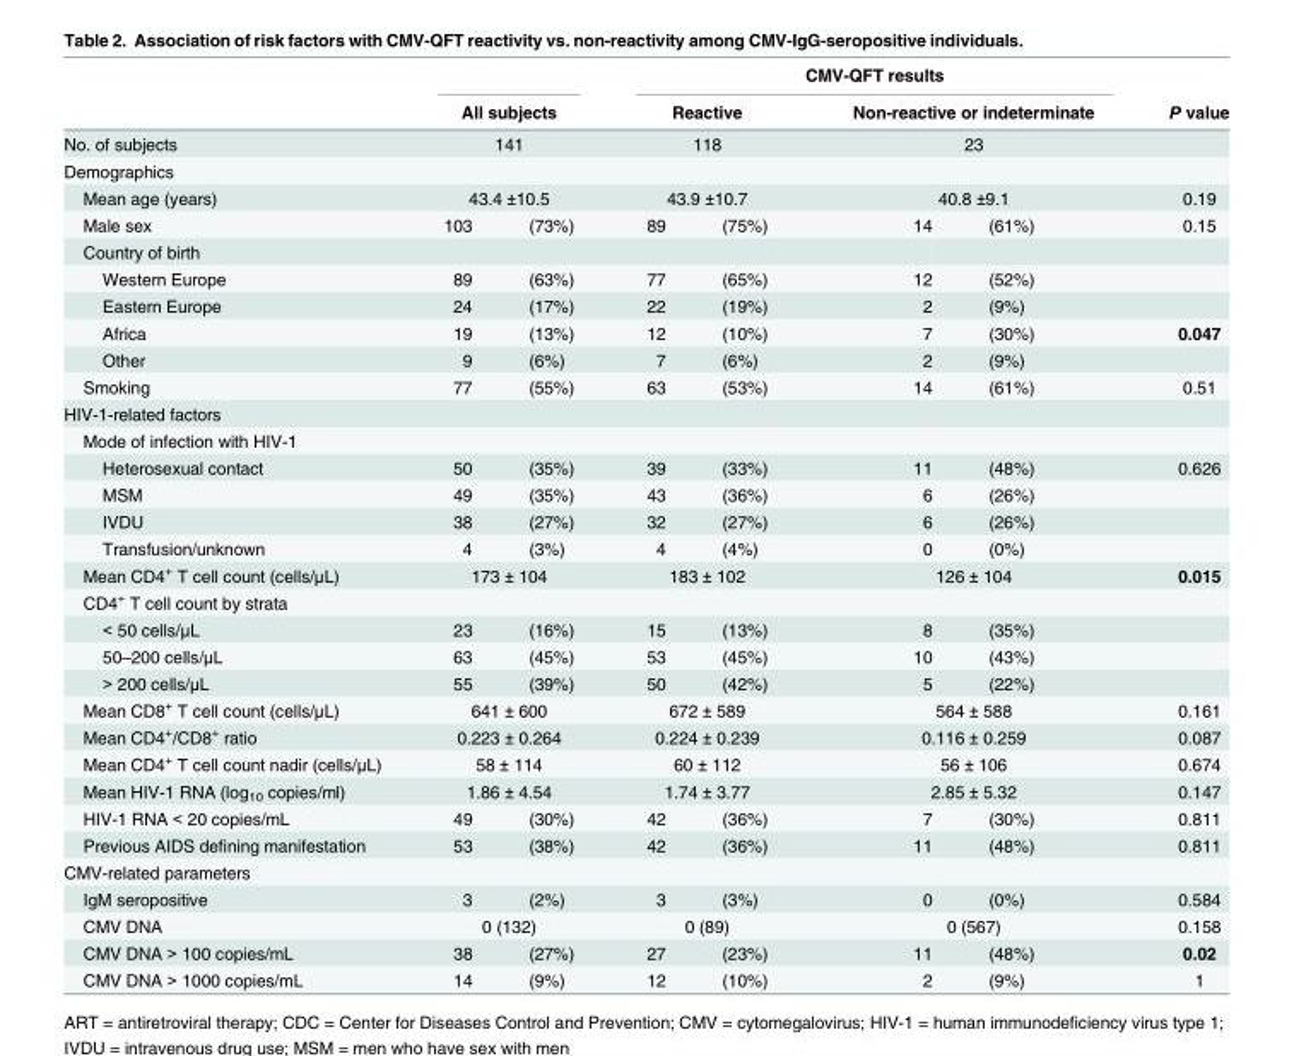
<table><thead><tr><td rowspan="2"></td><td></td><td></td><td colspan="4">CMV-QFT results</td><td rowspan="2">P value</td></tr><tr><td colspan="2">All subjects</td><td colspan="2">Reactive</td><td colspan="2">Non-reactive or indeterminate</td></tr></thead><tbody><tr><td>No. of subjects</td><td colspan="2">141</td><td colspan="2">118</td><td colspan="2">23</td><td></td></tr><tr><td colspan="8">Demographics</td></tr><tr><td>Mean age (years)</td><td colspan="2">43.4 ±10.5</td><td colspan="2">43.9 ±10.7</td><td colspan="2">40.8 ±9.1</td><td>0.19</td></tr><tr><td>Male sex</td><td>103</td><td>(73%)</td><td>89</td><td>(75%)</td><td>14</td><td>(61%)</td><td>0.15</td></tr><tr><td colspan="8">Country of birth</td></tr><tr><td>Western Europe</td><td>89</td><td>(63%)</td><td>77</td><td>(65%)</td><td>12</td><td>(52%)</td><td></td></tr><tr><td>Eastern Europe</td><td>24</td><td>(17%)</td><td>22</td><td>(19%)</td><td>2</td><td>(9%)</td><td></td></tr><tr><td>Africa</td><td>19</td><td>(13%)</td><td>12</td><td>(10%)</td><td>7</td><td>(30%)</td><td>0.047</td></tr><tr><td>Other</td><td>9</td><td>(6%)</td><td>7</td><td>(6%)</td><td>2</td><td>(9%)</td><td></td></tr><tr><td>Smoking</td><td>77</td><td>(55%)</td><td>63</td><td>(53%)</td><td>14</td><td>(61%)</td><td>0.51</td></tr><tr><td colspan="8">HIV-1-related factors</td></tr><tr><td colspan="8">Mode of infection with HIV-1</td></tr><tr><td>Heterosexual contact</td><td>50</td><td>(35%)</td><td>39</td><td>(33%)</td><td>11</td><td>(48%)</td><td>0.626</td></tr><tr><td>MSM</td><td>49</td><td>(35%)</td><td>43</td><td>(36%)</td><td>6</td><td>(26%)</td><td></td></tr><tr><td>IVDU</td><td>38</td><td>(27%)</td><td>32</td><td>(27%)</td><td>6</td><td>(26%)</td><td></td></tr><tr><td>Transfusion/unknown</td><td>4</td><td>(3%)</td><td>4</td><td>(4%)</td><td>0</td><td>(0%)</td><td></td></tr><tr><td>Mean CD4<sup>+</sup> T cell count (cells/μL)</td><td colspan="2">173 ± 104</td><td colspan="2">183 ± 102</td><td colspan="2">126 ± 104</td><td>0.015</td></tr><tr><td colspan="8">CD4<sup>+</sup> T cell count by strata</td></tr><tr><td>&lt; 50 cells/μL</td><td>23</td><td>(16%)</td><td>15</td><td>(13%)</td><td>8</td><td>(35%)</td><td></td></tr><tr><td>50–200 cells/μL</td><td>63</td><td>(45%)</td><td>53</td><td>(45%)</td><td>10</td><td>(43%)</td><td></td></tr><tr><td>&gt; 200 cells/μL</td><td>55</td><td>(39%)</td><td>50</td><td>(42%)</td><td>5</td><td>(22%)</td><td></td></tr><tr><td>Mean CD8<sup>+</sup> T cell count (cells/μL)</td><td colspan="2">641 ± 600</td><td colspan="2">672 ± 589</td><td colspan="2">564 ± 588</td><td>0.161</td></tr><tr><td>Mean CD4<sup>+</sup>/CD8<sup>+</sup> ratio</td><td colspan="2">0.223 ± 0.264</td><td colspan="2">0.224 ± 0.239</td><td colspan="2">0.116 ± 0.259</td><td>0.087</td></tr><tr><td>Mean CD4<sup>+</sup> T cell count nadir (cells/μL)</td><td colspan="2">58 ± 114</td><td colspan="2">60 ± 112</td><td colspan="2">56 ± 106</td><td>0.674</td></tr><tr><td>Mean HIV-1 RNA (log<sub>10</sub> copies/ml)</td><td colspan="2">1.86 ± 4.54</td><td colspan="2">1.74 ± 3.77</td><td colspan="2">2.85 ± 5.32</td><td>0.147</td></tr><tr><td>HIV-1 RNA &lt; 20 copies/mL</td><td>49</td><td>(30%)</td><td>42</td><td>(36%)</td><td>7</td><td>(30%)</td><td>0.811</td></tr><tr><td>Previous AIDS defining manifestation</td><td>53</td><td>(38%)</td><td>42</td><td>(36%)</td><td>11</td><td>(48%)</td><td>0.811</td></tr><tr><td colspan="8">CMV-related parameters</td></tr><tr><td>IgM seropositive</td><td>3</td><td>(2%)</td><td>3</td><td>(3%)</td><td>0</td><td>(0%)</td><td>0.584</td></tr><tr><td>CMV DNA</td><td colspan="2">0 (132)</td><td colspan="2">0 (89)</td><td colspan="2">0 (567)</td><td>0.158</td></tr><tr><td>CMV DNA &gt; 100 copies/mL</td><td>38</td><td>(27%)</td><td>27</td><td>(23%)</td><td>11</td><td>(48%)</td><td>0.02</td></tr><tr><td>CMV DNA &gt; 1000 copies/mL</td><td>14</td><td>(9%)</td><td>12</td><td>(10%)</td><td>2</td><td>(9%)</td><td>1</td></tr></tbody></table>